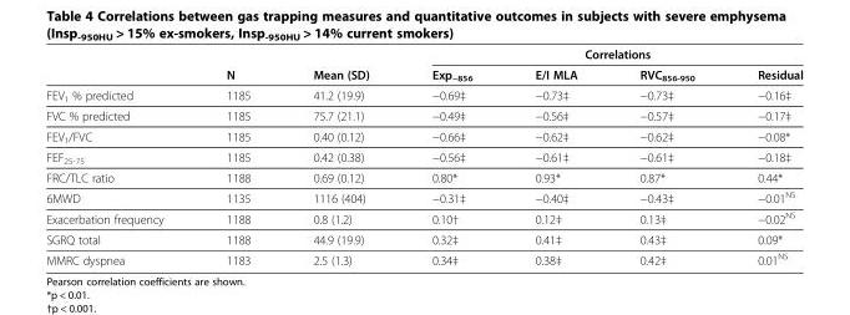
<table><thead><tr><td rowspan="2"></td><td rowspan="2">N</td><td rowspan="2">Mean (SD)</td><td colspan="4">Correlations</td></tr><tr><td>Exp<sub>−856</sub></td><td>E/I MLA</td><td>RVC<sub>856-950</sub></td><td>Residual</td></tr></thead><tbody><tr><td>FEV<sub>1</sub> % predicted</td><td>1185</td><td>41.2 (19.9)</td><td>−0.69‡</td><td>−0.73‡</td><td>−0.73‡</td><td>−0.16‡</td></tr><tr><td>FVC % predicted</td><td>1185</td><td>75.7 (21.1)</td><td>−0.49‡</td><td>−0.56‡</td><td>−0.57‡</td><td>−0.17‡</td></tr><tr><td>FEV<sub>1</sub>/FVC</td><td>1185</td><td>0.40 (0.12)</td><td>−0.66‡</td><td>−0.62‡</td><td>−0.62‡</td><td>−0.08*</td></tr><tr><td>FEF<sub>25-75</sub></td><td>1185</td><td>0.42 (0.38)</td><td>−0.56‡</td><td>−0.61‡</td><td>−0.61‡</td><td>−0.18‡</td></tr><tr><td>FRC/TLC ratio</td><td>1188</td><td>0.69 (0.12)</td><td>0.80*</td><td>0.93*</td><td>0.87*</td><td>0.44*</td></tr><tr><td>6MWD</td><td>1135</td><td>1116 (404)</td><td>−0.31‡</td><td>−0.40‡</td><td>−0.43‡</td><td>−0.01<sup>NS</sup></td></tr><tr><td>Exacerbation frequency</td><td>1188</td><td>0.8 (1.2)</td><td>0.10†</td><td>0.12‡</td><td>0.13‡</td><td>−0.02<sup>NS</sup></td></tr><tr><td>SGRQ total</td><td>1188</td><td>44.9 (19.9)</td><td>0.32‡</td><td>0.41‡</td><td>0.43‡</td><td>0.09*</td></tr><tr><td>MMRC dyspnea</td><td>1183</td><td>2.5 (1.3)</td><td>0.34‡</td><td>0.38‡</td><td>0.42‡</td><td>0.01<sup>NS</sup></td></tr></tbody></table>